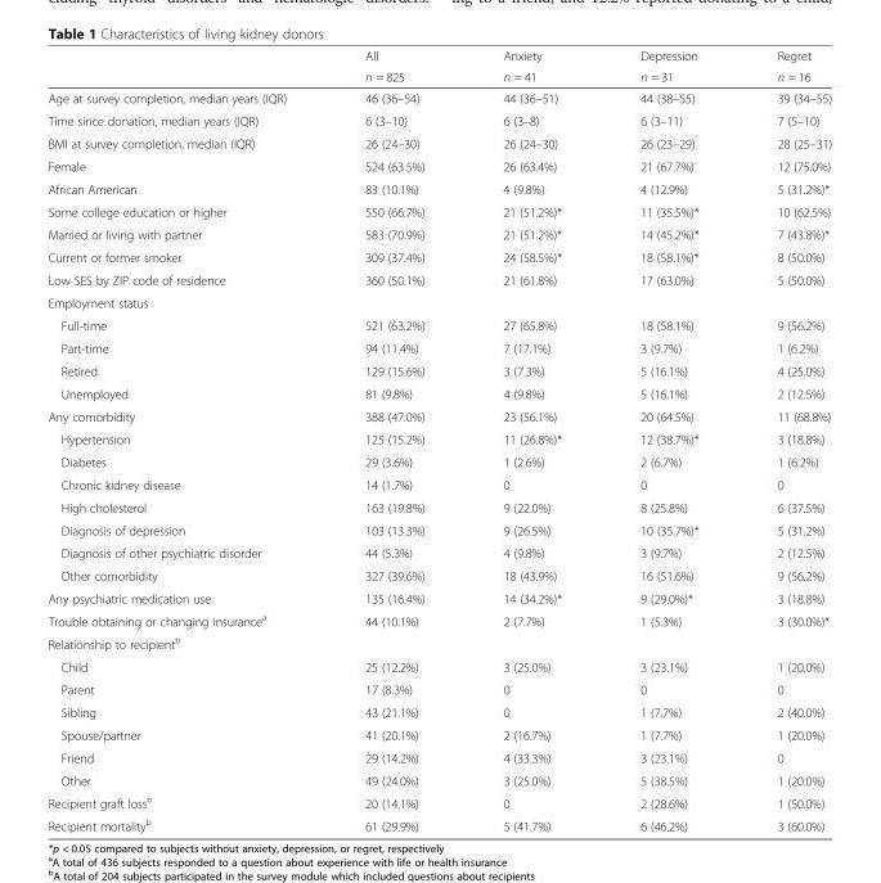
<table><thead><tr><td rowspan="2"></td><td rowspan="2">All n = 825</td><td rowspan="2">Anxiety n = 41</td><td rowspan="2">Depression n = 31</td><td rowspan="2">Regret n = 16</td></tr><tr></tr></thead><tbody><tr><td>Age at survey completion, median years (IQR)</td><td>46 (36–54)</td><td>44 (36–51)</td><td>44 (38–55)</td><td>39 (34–55)</td></tr><tr><td>Time since donation, median years (IQR)</td><td>6 (3–10)</td><td>6 (3–8)</td><td>6 (3–11)</td><td>7 (5–10)</td></tr><tr><td>BMI at survey completion, median (IQR)</td><td>26 (24–30)</td><td>26 (24–30)</td><td>26 (23–29)</td><td>28 (25–31)</td></tr><tr><td>Female</td><td>524 (63.5%)</td><td>26 (63.4%)</td><td>21 (67.7%)</td><td>12 (75.0%)</td></tr><tr><td>African American</td><td>83 (10.1%)</td><td>4 (9.8%)</td><td>4 (12.9%)</td><td>5 (31.2%)*</td></tr><tr><td>Some college education or higher</td><td>550 (66.7%)</td><td>21 (51.2%)*</td><td>11 (35.5%)*</td><td>10 (62.5%)</td></tr><tr><td>Married or living with partner</td><td>583 (70.9%)</td><td>21 (51.2%)*</td><td>14 (45.2%)*</td><td>7 (43.8%)*</td></tr><tr><td>Current or former smoker</td><td>309 (37.4%)</td><td>24 (58.5%)*</td><td>18 (58.1%)*</td><td>8 (50.0%)</td></tr><tr><td>Low SES by ZIP code of residence</td><td>360 (50.1%)</td><td>21 (61.8%)</td><td>17 (63.0%)</td><td>5 (50.0%)</td></tr><tr><td colspan="5">Employment status</td></tr><tr><td>Full-time</td><td>521 (63.2%)</td><td>27 (65.8%)</td><td>18 (58.1%)</td><td>9 (56.2%)</td></tr><tr><td>Part-time</td><td>94 (11.4%)</td><td>7 (17.1%)</td><td>3 (9.7%)</td><td>1 (6.2%)</td></tr><tr><td>Retired</td><td>129 (15.6%)</td><td>3 (7.3%)</td><td>5 (16.1%)</td><td>4 (25.0%)</td></tr><tr><td>Unemployed</td><td>81 (9.8%)</td><td>4 (9.8%)</td><td>5 (16.1%)</td><td>2 (12.5%)</td></tr><tr><td>Any comorbidity</td><td>388 (47.0%)</td><td>23 (56.1%)</td><td>20 (64.5%)</td><td>11 (68.8%)</td></tr><tr><td>Hypertension</td><td>125 (15.2%)</td><td>11 (26.8%)*</td><td>12 (38.7%)*</td><td>3 (18.8%)</td></tr><tr><td>Diabetes</td><td>29 (3.6%)</td><td>1 (2.6%)</td><td>2 (6.7%)</td><td>1 (6.2%)</td></tr><tr><td>Chronic kidney disease</td><td>14 (1.7%)</td><td>0</td><td>0</td><td>0</td></tr><tr><td>High cholesterol</td><td>163 (19.8%)</td><td>9 (22.0%)</td><td>8 (25.8%)</td><td>6 (37.5%)</td></tr><tr><td>Diagnosis of depression</td><td>103 (13.3%)</td><td>9 (26.5%)</td><td>10 (35.7%)*</td><td>5 (31.2%)</td></tr><tr><td>Diagnosis of other psychiatric disorder</td><td>44 (5.3%)</td><td>4 (9.8%)</td><td>3 (9.7%)</td><td>2 (12.5%)</td></tr><tr><td>Other comorbidity</td><td>327 (39.6%)</td><td>18 (43.9%)</td><td>16 (51.6%)</td><td>9 (56.2%)</td></tr><tr><td>Any psychiatric medication use</td><td>135 (16.4%)</td><td>14 (34.2%)*</td><td>9 (29.0%)*</td><td>3 (18.8%)</td></tr><tr><td>Trouble obtaining or changing insurance<sup>a</sup></td><td>44 (10.1%)</td><td>2 (7.7%)</td><td>1 (5.3%)</td><td>3 (30.0%)*</td></tr><tr><td colspan="5">Relationship to recipient<sup>b</sup></td></tr><tr><td>Child</td><td>25 (12.2%)</td><td>3 (25.0%)</td><td>3 (23.1%)</td><td>1 (20.0%)</td></tr><tr><td>Parent</td><td>17 (8.3%)</td><td>0</td><td>0</td><td>0</td></tr><tr><td>Sibling</td><td>43 (21.1%)</td><td>0</td><td>1 (7.7%)</td><td>2 (40.0%)</td></tr><tr><td>Spouse/partner</td><td>41 (20.1%)</td><td>2 (16.7%)</td><td>1 (7.7%)</td><td>1 (20.0%)</td></tr><tr><td>Friend</td><td>29 (14.2%)</td><td>4 (33.3%)</td><td>3 (23.1%)</td><td>0</td></tr><tr><td>Other</td><td>49 (24.0%)</td><td>3 (25.0%)</td><td>5 (38.5%)</td><td>1 (20.0%)</td></tr><tr><td>Recipient graft loss<sup>b</sup></td><td>20 (14.1%)</td><td>0</td><td>2 (28.6%)</td><td>1 (50.0%)</td></tr><tr><td>Recipient mortality<sup>b</sup></td><td>61 (29.9%)</td><td>5 (41.7%)</td><td>6 (46.2%)</td><td>3 (60.0%)</td></tr></tbody></table>